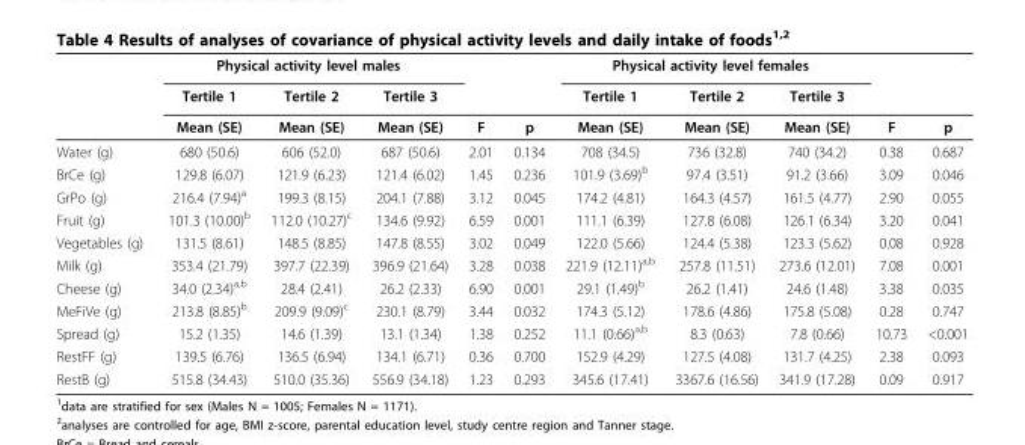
<table><thead><tr><td rowspan="3"></td><td colspan="3">Physical activity level males</td><td rowspan="3">F</td><td rowspan="3">p</td><td colspan="3">Physical activity level females</td><td rowspan="3">F</td><td rowspan="3">p</td></tr><tr><td rowspan="2">Tertile 1 Mean (SE)</td><td rowspan="2">Tertile 2 Mean (SE)</td><td rowspan="2">Tertile 3 Mean (SE)</td><td rowspan="2">Tertile 1 Mean (SE)</td><td rowspan="2">Tertile 2 Mean (SE)</td><td rowspan="2">Tertile 3 Mean (SE)</td></tr><tr></tr></thead><tbody><tr><td>Water (g)</td><td>680 (50.6)</td><td>606 (52.0)</td><td>687 (50.6)</td><td>2.01</td><td>0.134</td><td>708 (34.5)</td><td>736 (32.8)</td><td>740 (34.2)</td><td>0.38</td><td>0.687</td></tr><tr><td>BrCe (g)</td><td>129.8 (6.07)</td><td>121.9 (6.23)</td><td>121.4 (6.02)</td><td>1.45</td><td>0.236</td><td>101.9 (3.69)<sup>b</sup></td><td>97.4 (3.51)</td><td>91.2 (3.66)</td><td>3.09</td><td>0.046</td></tr><tr><td>GrPo (g)</td><td>216.4 (7.94)<sup>a</sup></td><td>199.3 (8.15)</td><td>204.1 (7.88)</td><td>3.12</td><td>0.045</td><td>174.2 (4.81)</td><td>164.3 (4.57)</td><td>161.5 (4.77)</td><td>2.90</td><td>0.055</td></tr><tr><td>Fruit (g)</td><td>101.3 (10.00)<sup>b</sup></td><td>112.0 (10.27)<sup>c</sup></td><td>134.6 (9.92)</td><td>6.59</td><td>0.001</td><td>111.1 (6.39)</td><td>127.8 (6.08)</td><td>126.1 (6.34)</td><td>3.20</td><td>0.041</td></tr><tr><td>Vegetables (g)</td><td>131.5 (8.61)</td><td>148.5 (8.85)</td><td>147.8 (8.55)</td><td>3.02</td><td>0.049</td><td>122.0 (5.66)</td><td>124.4 (5.38)</td><td>123.3 (5.62)</td><td>0.08</td><td>0.928</td></tr><tr><td>Milk (g)</td><td>353.4 (21.79)</td><td>397.7 (22.39)</td><td>396.9 (21.64)</td><td>3.28</td><td>0.038</td><td>221.9 (12.11)<sup>a,b</sup></td><td>257.8 (11.51)</td><td>273.6 (12.01)</td><td>7.08</td><td>0.001</td></tr><tr><td>Cheese (g)</td><td>34.0 (2.34)<sup>a,b</sup></td><td>28.4 (2.41)</td><td>26.2 (2.33)</td><td>6.90</td><td>0.001</td><td>29.1 (1.49)<sup>b</sup></td><td>26.2 (1.41)</td><td>24.6 (1.48)</td><td>3.38</td><td>0.035</td></tr><tr><td>MeFiVe (g)</td><td>213.8 (8.85)<sup>b</sup></td><td>209.9 (9.09)<sup>c</sup></td><td>230.1 (8.79)</td><td>3.44</td><td>0.032</td><td>174.3 (5.12)</td><td>178.6 (4.86)</td><td>175.8 (5.08)</td><td>0.28</td><td>0.747</td></tr><tr><td>Spread (g)</td><td>15.2 (1.35)</td><td>14.6 (1.39)</td><td>13.1 (1.34)</td><td>1.38</td><td>0.252</td><td>11.1 (0.66)<sup>a,b</sup></td><td>8.3 (0.63)</td><td>7.8 (0.66)</td><td>10.73</td><td>&lt;0.001</td></tr><tr><td>RestFF (g)</td><td>139.5 (6.76)</td><td>136.5 (6.94)</td><td>134.1 (6.71)</td><td>0.36</td><td>0.700</td><td>152.9 (4.29)</td><td>127.5 (4.08)</td><td>131.7 (4.25)</td><td>2.38</td><td>0.093</td></tr><tr><td>RestB (g)</td><td>515.8 (34.43)</td><td>510.0 (35.36)</td><td>556.9 (34.18)</td><td>1.23</td><td>0.293</td><td>345.6 (17.41)</td><td>3367.6 (16.56)</td><td>341.9 (17.28)</td><td>0.09</td><td>0.917</td></tr></tbody></table>